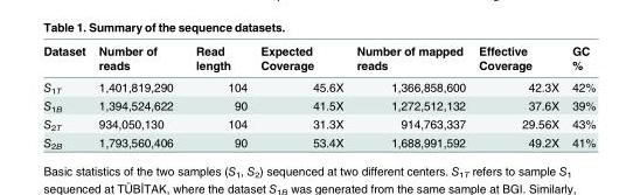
<table><thead><tr><td>Dataset</td><td>Number of reads</td><td>Read length</td><td>Expected Coverage</td><td>Number of mapped reads</td><td>Effective Coverage</td><td>GC %</td></tr></thead><tbody><tr><td>S<sub>1T</sub></td><td>1,401,819,290</td><td>104</td><td>45.6X</td><td>1,366,858,600</td><td>42.3X</td><td>42%</td></tr><tr><td>S<sub>1B</sub></td><td>1,394,524,622</td><td>90</td><td>41.5X</td><td>1,272,512,132</td><td>37.6X</td><td>39%</td></tr><tr><td>S<sub>2T</sub></td><td>934,050,130</td><td>104</td><td>31.3X</td><td>914,763,337</td><td>29.56X</td><td>43%</td></tr><tr><td>S<sub>2B</sub></td><td>1,793,560,406</td><td>90</td><td>53.4X</td><td>1,688,991,592</td><td>49.2X</td><td>41%</td></tr></tbody></table>